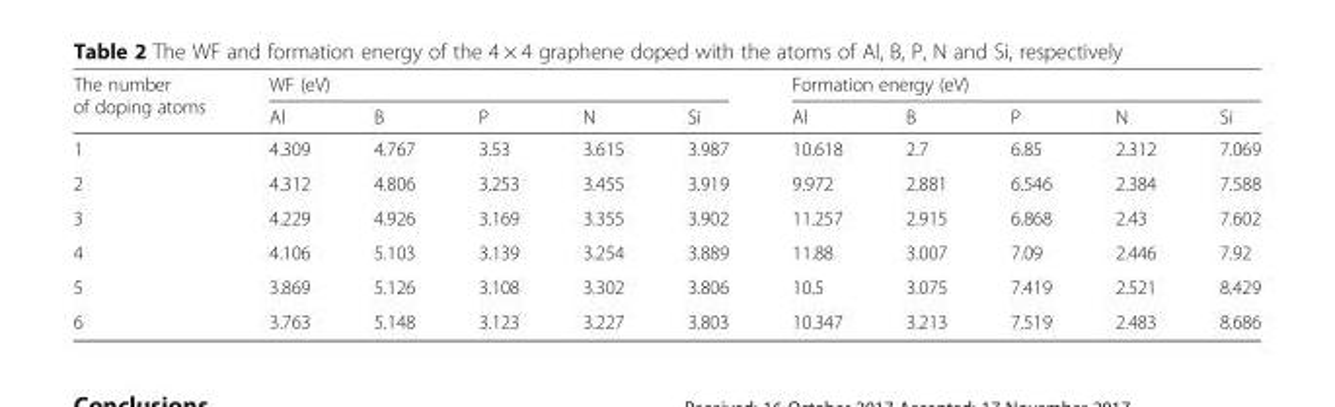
<table><thead><tr><td rowspan="2">The number of doping atoms</td><td colspan="5">WF (eV)</td><td colspan="5">Formation energy (eV)</td></tr><tr><td>Al</td><td>B</td><td>P</td><td>N</td><td>Si</td><td>Al</td><td>B</td><td>P</td><td>N</td><td>Si</td></tr></thead><tbody><tr><td>1</td><td>4.309</td><td>4.767</td><td>3.53</td><td>3.615</td><td>3.987</td><td>10.618</td><td>2.7</td><td>6.85</td><td>2.312</td><td>7.069</td></tr><tr><td>2</td><td>4.312</td><td>4.806</td><td>3.253</td><td>3.455</td><td>3.919</td><td>9.972</td><td>2.881</td><td>6.546</td><td>2.384</td><td>7.588</td></tr><tr><td>3</td><td>4.229</td><td>4.926</td><td>3.169</td><td>3.355</td><td>3.902</td><td>11.257</td><td>2.915</td><td>6.868</td><td>2.43</td><td>7.602</td></tr><tr><td>4</td><td>4.106</td><td>5.103</td><td>3.139</td><td>3.254</td><td>3.889</td><td>11.88</td><td>3.007</td><td>7.09</td><td>2.446</td><td>7.92</td></tr><tr><td>5</td><td>3.869</td><td>5.126</td><td>3.108</td><td>3.302</td><td>3.806</td><td>10.5</td><td>3.075</td><td>7.419</td><td>2.521</td><td>8.429</td></tr><tr><td>6</td><td>3.763</td><td>5.148</td><td>3.123</td><td>3.227</td><td>3.803</td><td>10.347</td><td>3.213</td><td>7.519</td><td>2.483</td><td>8.686</td></tr></tbody></table>